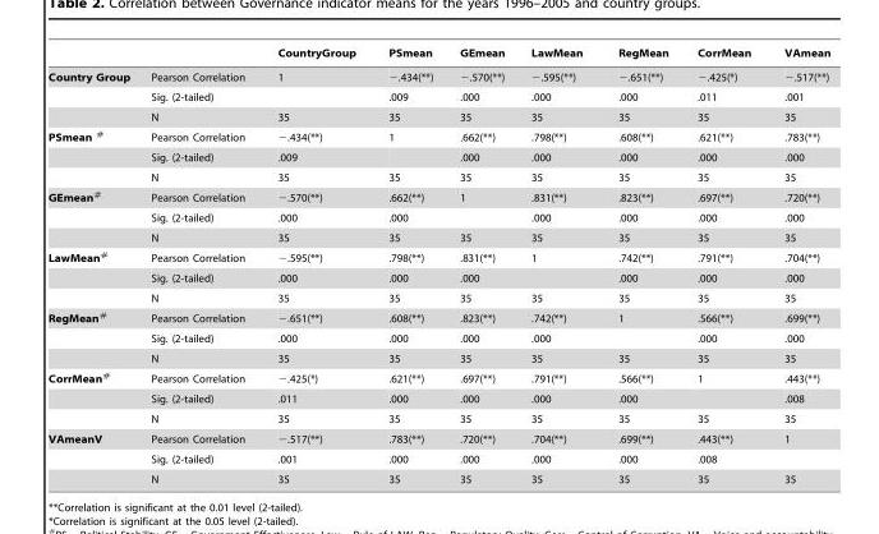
<table><thead><tr><td></td><td></td><td>CountryGroup</td><td>PSmean</td><td>GEmean</td><td>LawMean</td><td>RegMean</td><td>CorrMean</td><td>VAmean</td></tr></thead><tbody><tr><td rowspan="3">Country Group</td><td>Pearson Correlation</td><td>1</td><td>−.434(**)</td><td>−.570(**)</td><td>−.595(**)</td><td>−.651(**)</td><td>−.425(*)</td><td>−.517(**)</td></tr><tr><td>Sig. (2-tailed)</td><td></td><td>.009</td><td>.000</td><td>.000</td><td>.000</td><td>.011</td><td>.001</td></tr><tr><td>N</td><td>35</td><td>35</td><td>35</td><td>35</td><td>35</td><td>35</td><td>35</td></tr><tr><td rowspan="3">PSmean #</td><td>Pearson Correlation</td><td>−.434(**)</td><td>1</td><td>.662(**)</td><td>.798(**)</td><td>.608(**)</td><td>.621(**)</td><td>.783(**)</td></tr><tr><td>Sig. (2-tailed)</td><td>.009</td><td></td><td>.000</td><td>.000</td><td>.000</td><td>.000</td><td>.000</td></tr><tr><td>N</td><td>35</td><td>35</td><td>35</td><td>35</td><td>35</td><td>35</td><td>35</td></tr><tr><td rowspan="3">GEmean#</td><td>Pearson Correlation</td><td>−.570(**)</td><td>.662(**)</td><td>1</td><td>.831(**)</td><td>.823(**)</td><td>.697(**)</td><td>.720(**)</td></tr><tr><td>Sig. (2-tailed)</td><td>.000</td><td>.000</td><td></td><td>.000</td><td>.000</td><td>.000</td><td>.000</td></tr><tr><td>N</td><td>35</td><td>35</td><td>35</td><td>35</td><td>35</td><td>35</td><td>35</td></tr><tr><td rowspan="3">LawMean#</td><td>Pearson Correlation</td><td>−.595(**)</td><td>.798(**)</td><td>.831(**)</td><td>1</td><td>.742(**)</td><td>.791(**)</td><td>.704(**)</td></tr><tr><td>Sig. (2-tailed)</td><td>.000</td><td>.000</td><td>.000</td><td></td><td>.000</td><td>.000</td><td>.000</td></tr><tr><td>N</td><td>35</td><td>35</td><td>35</td><td>35</td><td>35</td><td>35</td><td>35</td></tr><tr><td rowspan="3">RegMean#</td><td>Pearson Correlation</td><td>−.651(**)</td><td>.608(**)</td><td>.823(**)</td><td>.742(**)</td><td>1</td><td>.566(**)</td><td>.699(**)</td></tr><tr><td>Sig. (2-tailed)</td><td>.000</td><td>.000</td><td>.000</td><td>.000</td><td></td><td>.000</td><td>.000</td></tr><tr><td>N</td><td>35</td><td>35</td><td>35</td><td>35</td><td>35</td><td>35</td><td>35</td></tr><tr><td rowspan="3">CorrMean#</td><td>Pearson Correlation</td><td>−.425(*)</td><td>.621(**)</td><td>.697(**)</td><td>.791(**)</td><td>.566(**)</td><td>1</td><td>.443(**)</td></tr><tr><td>Sig. (2-tailed)</td><td>.011</td><td>.000</td><td>.000</td><td>.000</td><td>.000</td><td></td><td>.008</td></tr><tr><td>N</td><td>35</td><td>35</td><td>35</td><td>35</td><td>35</td><td>35</td><td>35</td></tr><tr><td rowspan="3">VAmeanV</td><td>Pearson Correlation</td><td>−.517(**)</td><td>.783(**)</td><td>.720(**)</td><td>.704(**)</td><td>.699(**)</td><td>.443(**)</td><td>1</td></tr><tr><td>Sig. (2-tailed)</td><td>.001</td><td>.000</td><td>.000</td><td>.000</td><td>.000</td><td>.008</td><td></td></tr><tr><td>N</td><td>35</td><td>35</td><td>35</td><td>35</td><td>35</td><td>35</td><td>35</td></tr></tbody></table>